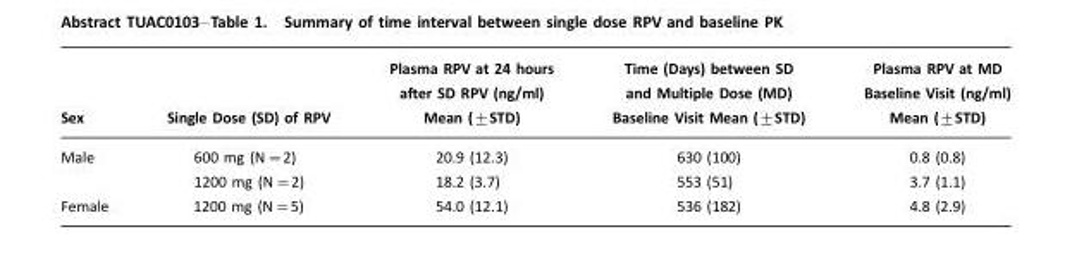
<table><thead><tr><td>Sex</td><td>Single Dose (SD) of RPV</td><td>Plasma RPV at 24 hours after SD RPV (ng/ml) Mean (±STD)</td><td>Time (Days) between SD and Multiple Dose (MD) Baseline Visit Mean (±STD)</td><td>Plasma RPV at MD Baseline Visit (ng/ml) Mean (±STD)</td></tr></thead><tbody><tr><td rowspan="2">Male</td><td>600 mg (N=2)</td><td>20.9 (12.3)</td><td>630 (100)</td><td>0.8 (0.8)</td></tr><tr><td>1200 mg (N=2)</td><td>18.2 (3.7)</td><td>553 (51)</td><td>3.7 (1.1)</td></tr><tr><td>Female</td><td>1200 mg (N=5)</td><td>54.0 (12.1)</td><td>536 (182)</td><td>4.8 (2.9)</td></tr></tbody></table>